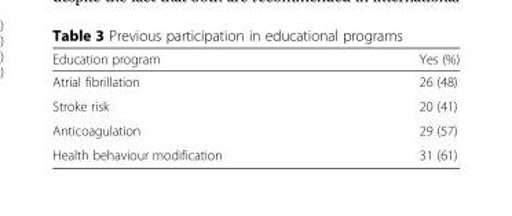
<table><thead><tr><td>Education program</td><td>Yes (%)</td></tr></thead><tbody><tr><td>Atrial fibrillation</td><td>26 (48)</td></tr><tr><td>Stroke risk</td><td>20 (41)</td></tr><tr><td>Anticoagulation</td><td>29 (57)</td></tr><tr><td>Health behaviour modification</td><td>31 (61)</td></tr></tbody></table>